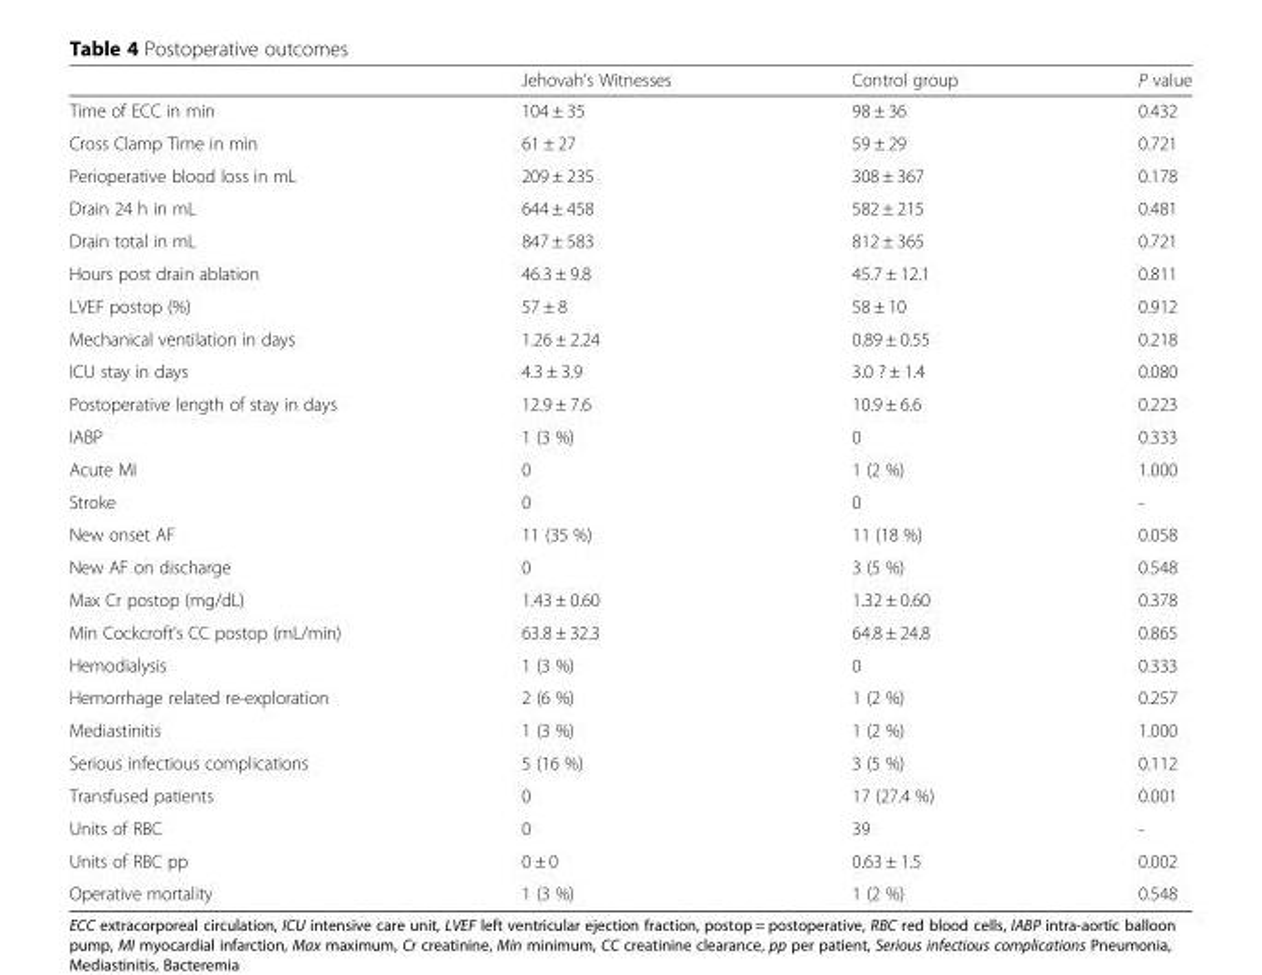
<table><thead><tr><td></td><td>Jehovah’s Witnesses</td><td>Control group</td><td>P value</td></tr></thead><tbody><tr><td>Time of ECC in min</td><td>104 ± 35</td><td>98 ± 36</td><td>0.432</td></tr><tr><td>Cross Clamp Time in min</td><td>61 ± 27</td><td>59 ± 29</td><td>0.721</td></tr><tr><td>Perioperative blood loss in mL</td><td>209 ± 235</td><td>308 ± 367</td><td>0.178</td></tr><tr><td>Drain 24 h in mL</td><td>644 ± 458</td><td>582 ± 215</td><td>0.481</td></tr><tr><td>Drain total in mL</td><td>847 ± 583</td><td>812 ± 365</td><td>0.721</td></tr><tr><td>Hours post drain ablation</td><td>46.3 ± 9.8</td><td>45.7 ± 12.1</td><td>0.811</td></tr><tr><td>LVEF postop (%)</td><td>57 ± 8</td><td>58 ± 10</td><td>0.912</td></tr><tr><td>Mechanical ventilation in days</td><td>1.26 ± 2.24</td><td>0.89 ± 0.55</td><td>0.218</td></tr><tr><td>ICU stay in days</td><td>4.3 ± 3.9</td><td>3.0 ? ± 1.4</td><td>0.080</td></tr><tr><td>Postoperative length of stay in days</td><td>12.9 ± 7.6</td><td>10.9 ± 6.6</td><td>0.223</td></tr><tr><td>IABP</td><td>1 (3 %)</td><td>0</td><td>0.333</td></tr><tr><td>Acute MI</td><td>0</td><td>1 (2 %)</td><td>1.000</td></tr><tr><td>Stroke</td><td>0</td><td>0</td><td>-</td></tr><tr><td>New onset AF</td><td>11 (35 %)</td><td>11 (18 %)</td><td>0.058</td></tr><tr><td>New AF on discharge</td><td>0</td><td>3 (5 %)</td><td>0.548</td></tr><tr><td>Max Cr postop (mg/dL)</td><td>1.43 ± 0.60</td><td>1.32 ± 0.60</td><td>0.378</td></tr><tr><td>Min Cockcroft’s CC postop (mL/min)</td><td>63.8 ± 32.3</td><td>64.8 ± 24.8</td><td>0.865</td></tr><tr><td>Hemodialysis</td><td>1 (3 %)</td><td>0</td><td>0.333</td></tr><tr><td>Hemorrhage related re-exploration</td><td>2 (6 %)</td><td>1 (2 %)</td><td>0.257</td></tr><tr><td>Mediastinitis</td><td>1 (3 %)</td><td>1 (2 %)</td><td>1.000</td></tr><tr><td>Serious infectious complications</td><td>5 (16 %)</td><td>3 (5 %)</td><td>0.112</td></tr><tr><td>Transfused patients</td><td>0</td><td>17 (27.4 %)</td><td>0.001</td></tr><tr><td>Units of RBC</td><td>0</td><td>39</td><td>-</td></tr><tr><td>Units of RBC pp</td><td>0 ± 0</td><td>0.63 ± 1.5</td><td>0.002</td></tr><tr><td>Operative mortality</td><td>1 (3 %)</td><td>1 (2 %)</td><td>0.548</td></tr></tbody></table>